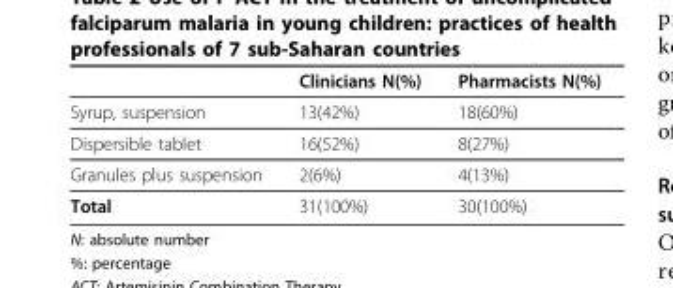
<table><thead><tr><td></td><td>Clinicians N(%)</td><td>Pharmacists N(%)</td></tr></thead><tbody><tr><td>Syrup, suspension</td><td>13(42%)</td><td>18(60%)</td></tr><tr><td>Dispersible tablet</td><td>16(52%)</td><td>8(27%)</td></tr><tr><td>Granules plus suspension</td><td>2(6%)</td><td>4(13%)</td></tr><tr><td>Total</td><td>31(100%)</td><td>30(100%)</td></tr></tbody></table>